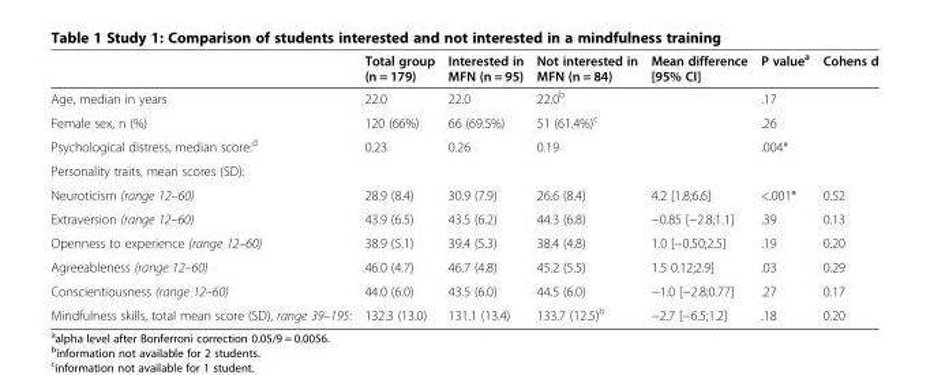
<table><thead><tr><td></td><td>Total group (n = 179)</td><td>Interested in MFN (n = 95)</td><td>Not interested in MFN (n = 84)</td><td>Mean difference [95% CI]</td><td>P value<sup>a</sup></td><td>Cohens d</td></tr></thead><tbody><tr><td>Age, median in years</td><td>22.0</td><td>22.0</td><td>22.0<sup>b</sup></td><td></td><td>.17</td><td></td></tr><tr><td>Female sex, n (%)</td><td>120 (66%)</td><td>66 (69.5%)</td><td>51 (61.4%)<sup>c</sup></td><td></td><td>.26</td><td></td></tr><tr><td>Psychological distress, median score:<sup>d</sup></td><td>0.23</td><td>0.26</td><td>0.19</td><td></td><td>.004*</td><td></td></tr><tr><td colspan="7">Personality traits, mean scores (SD):</td></tr><tr><td>Neuroticism (range 12–60)</td><td>28.9 (8.4)</td><td>30.9 (7.9)</td><td>26.6 (8.4)</td><td>4.2 [1.8;6.6]</td><td>&lt;.001*</td><td>0.52</td></tr><tr><td>Extraversion (range 12–60)</td><td>43.9 (6.5)</td><td>43.5 (6.2)</td><td>44.3 (6.8)</td><td>−0.85 [−2.8;1.1]</td><td>.39</td><td>0.13</td></tr><tr><td>Openness to experience (range 12–60)</td><td>38.9 (5.1)</td><td>39.4 (5.3)</td><td>38.4 (4.8)</td><td>1.0 [−0.50;2.5]</td><td>.19</td><td>0.20</td></tr><tr><td>Agreeableness (range 12–60)</td><td>46.0 (4.7)</td><td>46.7 (4.8)</td><td>45.2 (5.5)</td><td>1.5 0.12;2.9]</td><td>.03</td><td>0.29</td></tr><tr><td>Conscientiousness (range 12–60)</td><td>44.0 (6.0)</td><td>43.5 (6.0)</td><td>44.5 (6.0)</td><td>−1.0 [−2.8;0.77]</td><td>.27</td><td>0.17</td></tr><tr><td>Mindfulness skills, total mean score (SD), range 39–195:</td><td>132.3 (13.0)</td><td>131.1 (13.4)</td><td>133.7 (12.5)<sup>b</sup></td><td>−2.7 [−6.5;1.2]</td><td>.18</td><td>0.20</td></tr></tbody></table>